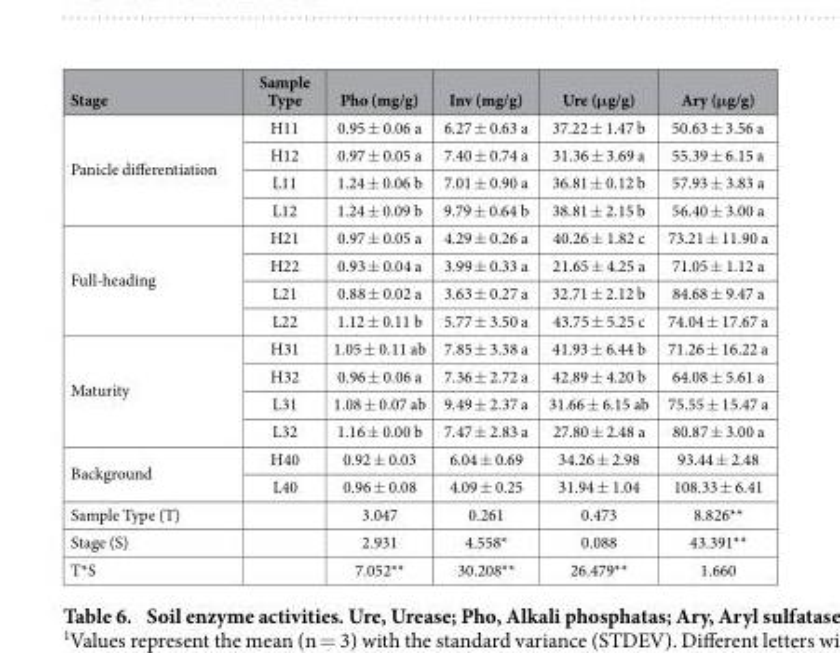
<table><thead><tr><td>Stage</td><td>Sample Type</td><td>Pho (mg/g)</td><td>Inv (mg/g)</td><td>Ure (μg/g)</td><td>Ary (μg/g)</td></tr></thead><tbody><tr><td rowspan="4">Panicle differentiation</td><td>H11</td><td>0.95 ± 0.06 a</td><td>6.27 ± 0.63 a</td><td>37.22 ± 1.47 b</td><td>50.63 ± 3.56 a</td></tr><tr><td>H12</td><td>0.97 ± 0.05 a</td><td>7.40 ± 0.74 a</td><td>31.36 ± 3.69 a</td><td>55.39 ± 6.15 a</td></tr><tr><td>L11</td><td>1.24 ± 0.06 b</td><td>7.01 ± 0.90 a</td><td>36.81 ± 0.12 b</td><td>57.93 ± 3.83 a</td></tr><tr><td>L12</td><td>1.24 ± 0.09 b</td><td>9.79 ± 0.64 b</td><td>38.81 ± 2.15 b</td><td>56.40 ± 3.00 a</td></tr><tr><td rowspan="4">Full-heading</td><td>H21</td><td>0.97 ± 0.05 a</td><td>4.29 ± 0.26 a</td><td>40.26 ± 1.82 c</td><td>73.21 ± 11.90 a</td></tr><tr><td>H22</td><td>0.93 ± 0.04 a</td><td>3.99 ± 0.33 a</td><td>21.65 ± 4.25 a</td><td>71.05 ± 1.12 a</td></tr><tr><td>L21</td><td>0.88 ± 0.02 a</td><td>3.63 ± 0.27 a</td><td>32.71 ± 2.12 b</td><td>84.68 ± 9.47 a</td></tr><tr><td>L22</td><td>1.12 ± 0.11 b</td><td>5.77 ± 3.50 a</td><td>43.75 ± 5.25 c</td><td>74.04 ± 17.67 a</td></tr><tr><td rowspan="4">Maturity</td><td>H31</td><td>1.05 ± 0.11 ab</td><td>7.85 ± 3.38 a</td><td>41.93 ± 6.44 b</td><td>71.26 ± 16.22 a</td></tr><tr><td>H32</td><td>0.96 ± 0.06 a</td><td>7.36 ± 2.72 a</td><td>42.89 ± 4.20 b</td><td>64.08 ± 5.61 a</td></tr><tr><td>L31</td><td>1.08 ± 0.07 ab</td><td>9.49 ± 2.37 a</td><td>31.66 ± 6.15 ab</td><td>75.55 ± 15.47 a</td></tr><tr><td>L32</td><td>1.16 ± 0.00 b</td><td>7.47 ± 2.83 a</td><td>27.80 ± 2.48 a</td><td>80.87 ± 3.00 a</td></tr><tr><td rowspan="2">Background</td><td>H40</td><td>0.92 ± 0.03</td><td>6.04 ± 0.69</td><td>34.26 ± 2.98</td><td>93.44 ± 2.48</td></tr><tr><td>L40</td><td>0.96 ± 0.08</td><td>4.09 ± 0.25</td><td>31.94 ± 1.04</td><td>108.33 ± 6.41</td></tr><tr><td>Sample Type (T)</td><td></td><td>3.047</td><td>0.261</td><td>0.473</td><td>8.826**</td></tr><tr><td>Stage (S)</td><td></td><td>2.931</td><td>4.558*</td><td>0.088</td><td>43.391**</td></tr><tr><td>T*S</td><td></td><td>7.052**</td><td>30.208**</td><td>26.479**</td><td>1.660</td></tr></tbody></table>